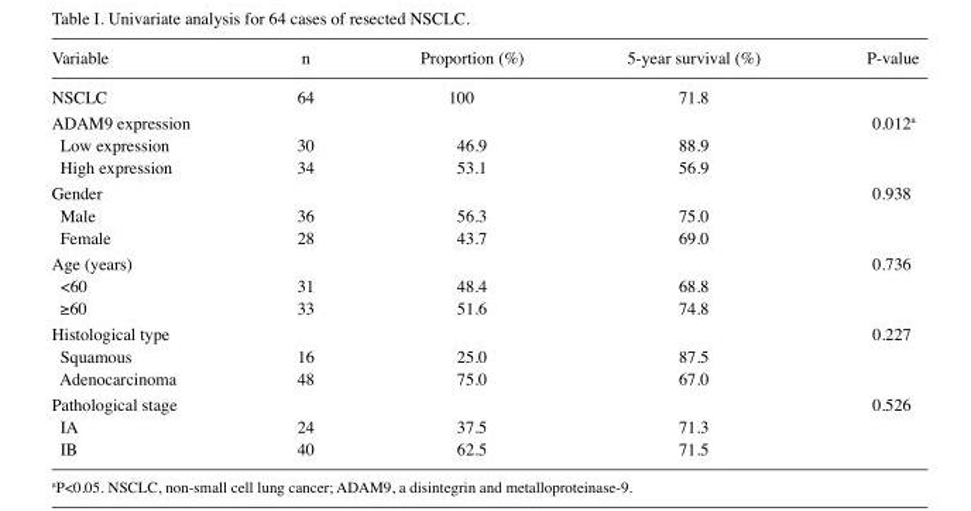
<table><thead><tr><td>Variable</td><td>n</td><td>Proportion (%)</td><td>5-year survival (%)</td><td>P-value</td></tr></thead><tbody><tr><td>NSCLC</td><td>64</td><td>100</td><td>71.8</td><td></td></tr><tr><td>ADAM9 expression</td><td></td><td></td><td></td><td>0.012<sup>a</sup></td></tr><tr><td>Low expression</td><td>30</td><td>46.9</td><td>88.9</td><td></td></tr><tr><td>High expression</td><td>34</td><td>53.1</td><td>56.9</td><td></td></tr><tr><td>Gender</td><td></td><td></td><td></td><td>0.938</td></tr><tr><td>Male</td><td>36</td><td>56.3</td><td>75.0</td><td></td></tr><tr><td>Female</td><td>28</td><td>43.7</td><td>69.0</td><td></td></tr><tr><td>Age (years)</td><td></td><td></td><td></td><td>0.736</td></tr><tr><td>&lt;60</td><td>31</td><td>48.4</td><td>68.8</td><td></td></tr><tr><td>≥60</td><td>33</td><td>51.6</td><td>74.8</td><td></td></tr><tr><td>Histological type</td><td></td><td></td><td></td><td>0.227</td></tr><tr><td>Squamous</td><td>16</td><td>25.0</td><td>87.5</td><td></td></tr><tr><td>Adenocarcinoma</td><td>48</td><td>75.0</td><td>67.0</td><td></td></tr><tr><td>Pathological stage</td><td></td><td></td><td></td><td>0.526</td></tr><tr><td>ⅠA</td><td>24</td><td>37.5</td><td>71.3</td><td></td></tr><tr><td>ⅠB</td><td>40</td><td>62.5</td><td>71.5</td><td></td></tr></tbody></table>